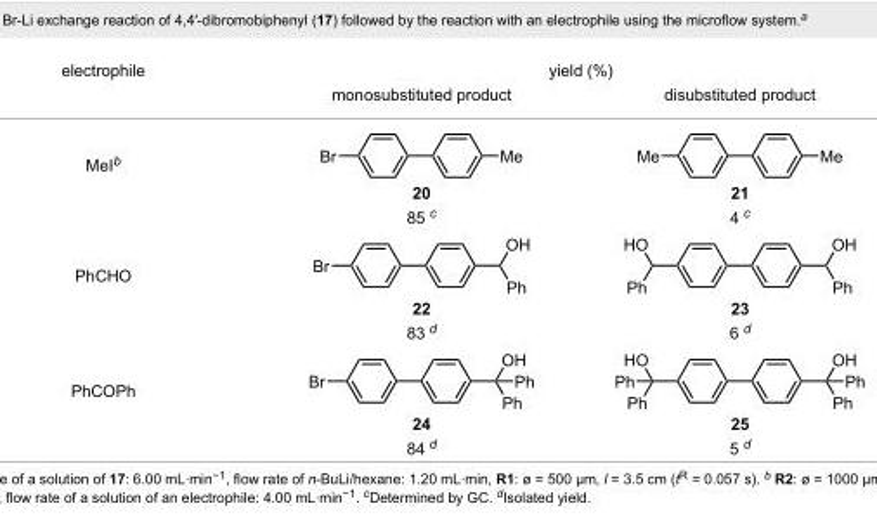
<table><tbody><tr><td rowspan="2">electrophile</td><td colspan="2">yield (%)</td></tr><tr><td>monosubstituted product</td><td>disubstituted product</td></tr><tr><td rowspan="2">MeI<sup>b</sup></td><td>20</td><td>21</td></tr><tr><td>85 <sup>c</sup></td><td>4 <sup>c</sup></td></tr><tr><td rowspan="2">PhCHO</td><td>22</td><td>23</td></tr><tr><td>83 <sup>d</sup></td><td>6 <sup>d</sup></td></tr><tr><td rowspan="2">PhCOPh</td><td>24</td><td>25</td></tr><tr><td>84 <sup>d</sup></td><td>5 <sup>d</sup></td></tr></tbody></table>